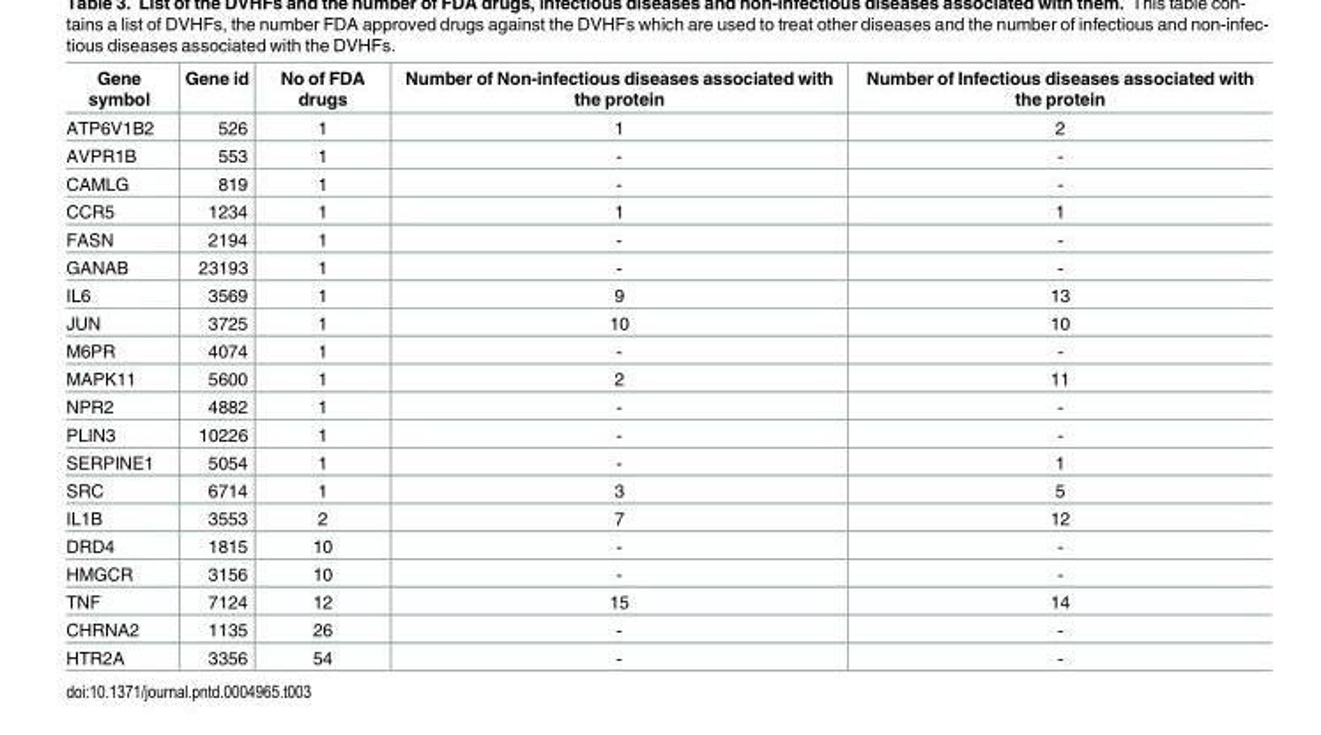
<table><thead><tr><td>Gene symbol</td><td>Gene id</td><td>No of FDA drugs</td><td>Number of Non-infectious diseases associated with the protein</td><td>Number of Infectious diseases associated with the protein</td></tr></thead><tbody><tr><td>ATP6V1B2</td><td>526</td><td>1</td><td>1</td><td>2</td></tr><tr><td>AVPR1B</td><td>553</td><td>1</td><td>-</td><td>-</td></tr><tr><td>CAMLG</td><td>819</td><td>1</td><td>-</td><td>-</td></tr><tr><td>CCR5</td><td>1234</td><td>1</td><td>1</td><td>1</td></tr><tr><td>FASN</td><td>2194</td><td>1</td><td>-</td><td>-</td></tr><tr><td>GANAB</td><td>23193</td><td>1</td><td>-</td><td>-</td></tr><tr><td>IL6</td><td>3569</td><td>1</td><td>9</td><td>13</td></tr><tr><td>JUN</td><td>3725</td><td>1</td><td>10</td><td>10</td></tr><tr><td>M6PR</td><td>4074</td><td>1</td><td>-</td><td>-</td></tr><tr><td>MAPK11</td><td>5600</td><td>1</td><td>2</td><td>11</td></tr><tr><td>NPR2</td><td>4882</td><td>1</td><td>-</td><td>-</td></tr><tr><td>PLIN3</td><td>10226</td><td>1</td><td>-</td><td>-</td></tr><tr><td>SERPINE1</td><td>5054</td><td>1</td><td>-</td><td>1</td></tr><tr><td>SRC</td><td>6714</td><td>1</td><td>3</td><td>5</td></tr><tr><td>IL1B</td><td>3553</td><td>2</td><td>7</td><td>12</td></tr><tr><td>DRD4</td><td>1815</td><td>10</td><td>-</td><td>-</td></tr><tr><td>HMGCR</td><td>3156</td><td>10</td><td>-</td><td>-</td></tr><tr><td>TNF</td><td>7124</td><td>12</td><td>15</td><td>14</td></tr><tr><td>CHRNA2</td><td>1135</td><td>26</td><td>-</td><td>-</td></tr><tr><td>HTR2A</td><td>3356</td><td>54</td><td>-</td><td>-</td></tr></tbody></table>